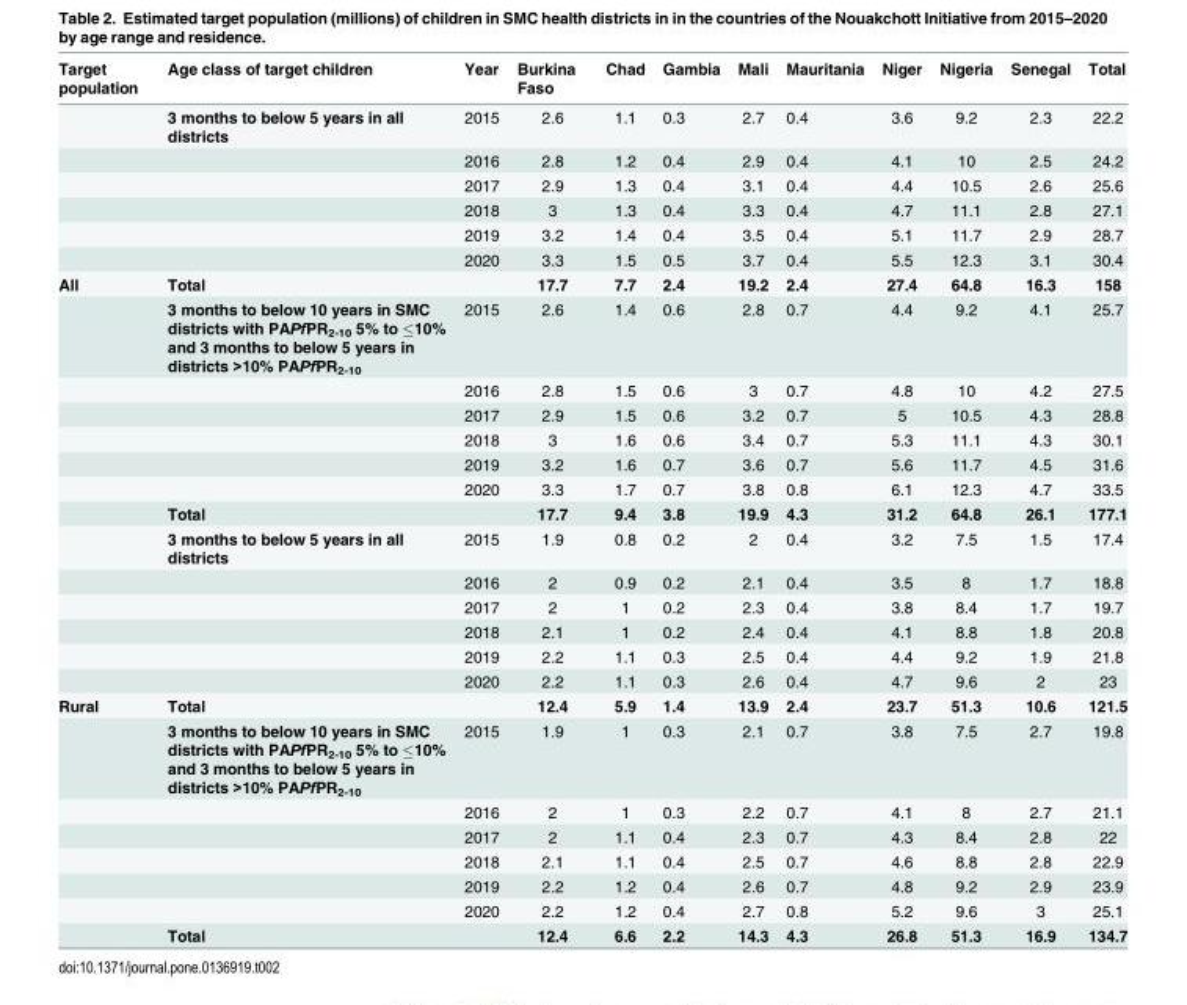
<table><thead><tr><td>Target population</td><td>Age class of target children</td><td>Year</td><td>Burkina Faso</td><td>Chad</td><td>Gambia</td><td>Mali</td><td>Mauritania</td><td>Niger</td><td>Nigeria</td><td>Senegal</td><td>Total</td></tr></thead><tbody><tr><td></td><td>3 months to below 5 years in all districts</td><td>2015</td><td>2.6</td><td>1.1</td><td>0.3</td><td>2.7</td><td>0.4</td><td>3.6</td><td>9.2</td><td>2.3</td><td>22.2</td></tr><tr><td></td><td></td><td>2016</td><td>2.8</td><td>1.2</td><td>0.4</td><td>2.9</td><td>0.4</td><td>4.1</td><td>10</td><td>2.5</td><td>24.2</td></tr><tr><td></td><td></td><td>2017</td><td>2.9</td><td>1.3</td><td>0.4</td><td>3.1</td><td>0.4</td><td>4.4</td><td>10.5</td><td>2.6</td><td>25.6</td></tr><tr><td></td><td></td><td>2018</td><td>3</td><td>1.3</td><td>0.4</td><td>3.3</td><td>0.4</td><td>4.7</td><td>11.1</td><td>2.8</td><td>27.1</td></tr><tr><td></td><td></td><td>2019</td><td>3.2</td><td>1.4</td><td>0.4</td><td>3.5</td><td>0.4</td><td>5.1</td><td>11.7</td><td>2.9</td><td>28.7</td></tr><tr><td></td><td></td><td>2020</td><td>3.3</td><td>1.5</td><td>0.5</td><td>3.7</td><td>0.4</td><td>5.5</td><td>12.3</td><td>3.1</td><td>30.4</td></tr><tr><td rowspan="14">All</td><td>Total</td><td></td><td>17.7</td><td>7.7</td><td>2.4</td><td>19.2</td><td>2.4</td><td>27.4</td><td>64.8</td><td>16.3</td><td>158</td></tr><tr><td>3 months to below 10 years in SMC districts with PAPfPR<sub>2-10</sub> 5% to ≤10% and 3 months to below 5 years in districts &gt;10% PAPfPR<sub>2-10</sub></td><td>2015</td><td>2.6</td><td>1.4</td><td>0.6</td><td>2.8</td><td>0.7</td><td>4.4</td><td>9.2</td><td>4.1</td><td>25.7</td></tr><tr><td></td><td>2016</td><td>2.8</td><td>1.5</td><td>0.6</td><td>3</td><td>0.7</td><td>4.8</td><td>10</td><td>4.2</td><td>27.5</td></tr><tr><td></td><td>2017</td><td>2.9</td><td>1.5</td><td>0.6</td><td>3.2</td><td>0.7</td><td>5</td><td>10.5</td><td>4.3</td><td>28.8</td></tr><tr><td></td><td>2018</td><td>3</td><td>1.6</td><td>0.6</td><td>3.4</td><td>0.7</td><td>5.3</td><td>11.1</td><td>4.3</td><td>30.1</td></tr><tr><td></td><td>2019</td><td>3.2</td><td>1.6</td><td>0.7</td><td>3.6</td><td>0.7</td><td>5.6</td><td>11.7</td><td>4.5</td><td>31.6</td></tr><tr><td></td><td>2020</td><td>3.3</td><td>1.7</td><td>0.7</td><td>3.8</td><td>0.8</td><td>6.1</td><td>12.3</td><td>4.7</td><td>33.5</td></tr><tr><td>Total</td><td></td><td>17.7</td><td>9.4</td><td>3.8</td><td>19.9</td><td>4.3</td><td>31.2</td><td>64.8</td><td>26.1</td><td>177.1</td></tr><tr><td>3 months to below 5 years in all districts</td><td>2015</td><td>1.9</td><td>0.8</td><td>0.2</td><td>2</td><td>0.4</td><td>3.2</td><td>7.5</td><td>1.5</td><td>17.4</td></tr><tr><td></td><td>2016</td><td>2</td><td>0.9</td><td>0.2</td><td>2.1</td><td>0.4</td><td>3.5</td><td>8</td><td>1.7</td><td>18.8</td></tr><tr><td></td><td>2017</td><td>2</td><td>1</td><td>0.2</td><td>2.3</td><td>0.4</td><td>3.8</td><td>8.4</td><td>1.7</td><td>19.7</td></tr><tr><td></td><td>2018</td><td>2.1</td><td>1</td><td>0.2</td><td>2.4</td><td>0.4</td><td>4.1</td><td>8.8</td><td>1.8</td><td>20.8</td></tr><tr><td></td><td>2019</td><td>2.2</td><td>1.1</td><td>0.3</td><td>2.5</td><td>0.4</td><td>4.4</td><td>9.2</td><td>1.9</td><td>21.8</td></tr><tr><td></td><td>2020</td><td>2.2</td><td>1.1</td><td>0.3</td><td>2.6</td><td>0.4</td><td>4.7</td><td>9.6</td><td>2</td><td>23</td></tr><tr><td rowspan="8">Rural</td><td>Total</td><td></td><td>12.4</td><td>5.9</td><td>1.4</td><td>13.9</td><td>2.4</td><td>23.7</td><td>51.3</td><td>10.6</td><td>121.5</td></tr><tr><td>3 months to below 10 years in SMC districts with PAPfPR<sub>2-10</sub> 5% to ≤10% and 3 months to below 5 years in districts &gt;10% PAPfPR<sub>2-10</sub></td><td>2015</td><td>1.9</td><td>1</td><td>0.3</td><td>2.1</td><td>0.7</td><td>3.8</td><td>7.5</td><td>2.7</td><td>19.8</td></tr><tr><td></td><td>2016</td><td>2</td><td>1</td><td>0.3</td><td>2.2</td><td>0.7</td><td>4.1</td><td>8</td><td>2.7</td><td>21.1</td></tr><tr><td></td><td>2017</td><td>2</td><td>1.1</td><td>0.4</td><td>2.3</td><td>0.7</td><td>4.3</td><td>8.4</td><td>2.8</td><td>22</td></tr><tr><td></td><td>2018</td><td>2.1</td><td>1.1</td><td>0.4</td><td>2.5</td><td>0.7</td><td>4.6</td><td>8.8</td><td>2.8</td><td>22.9</td></tr><tr><td></td><td>2019</td><td>2.2</td><td>1.2</td><td>0.4</td><td>2.6</td><td>0.7</td><td>4.8</td><td>9.2</td><td>2.9</td><td>23.9</td></tr><tr><td></td><td>2020</td><td>2.2</td><td>1.2</td><td>0.4</td><td>2.7</td><td>0.8</td><td>5.2</td><td>9.6</td><td>3</td><td>25.1</td></tr><tr><td>Total</td><td></td><td>12.4</td><td>6.6</td><td>2.2</td><td>14.3</td><td>4.3</td><td>26.8</td><td>51.3</td><td>16.9</td><td>134.7</td></tr></tbody></table>